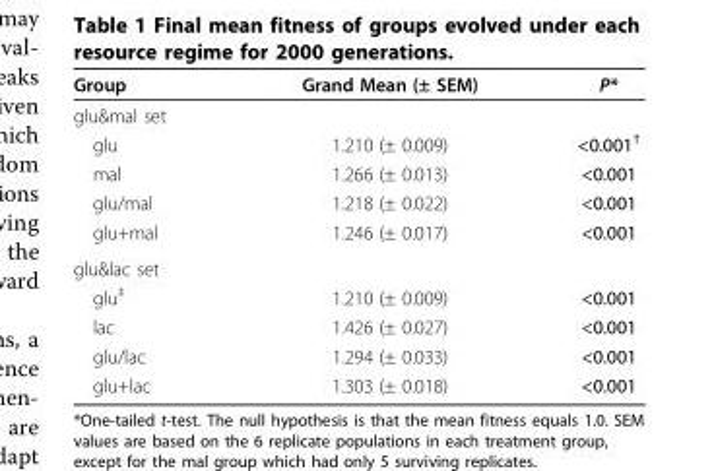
<table><thead><tr><td>Group</td><td>Grand Mean (± SEM)</td><td>P*</td></tr></thead><tbody><tr><td colspan="3">glu&amp;mal set</td></tr><tr><td>glu</td><td>1.210 (± 0.009)</td><td>&lt;0.001<sup>†</sup></td></tr><tr><td>mal</td><td>1.266 (± 0.013)</td><td>&lt;0.001</td></tr><tr><td>glu/mal</td><td>1.218 (± 0.022)</td><td>&lt;0.001</td></tr><tr><td>glu+mal</td><td>1.246 (± 0.017)</td><td>&lt;0.001</td></tr><tr><td colspan="3">glu&amp;lac set</td></tr><tr><td>glu<sup>‡</sup></td><td>1.210 (± 0.009)</td><td>&lt;0.001</td></tr><tr><td>lac</td><td>1.426 (± 0.027)</td><td>&lt;0.001</td></tr><tr><td>glu/lac</td><td>1.294 (± 0.033)</td><td>&lt;0.001</td></tr><tr><td>glu+lac</td><td>1.303 (± 0.018)</td><td>&lt;0.001</td></tr></tbody></table>